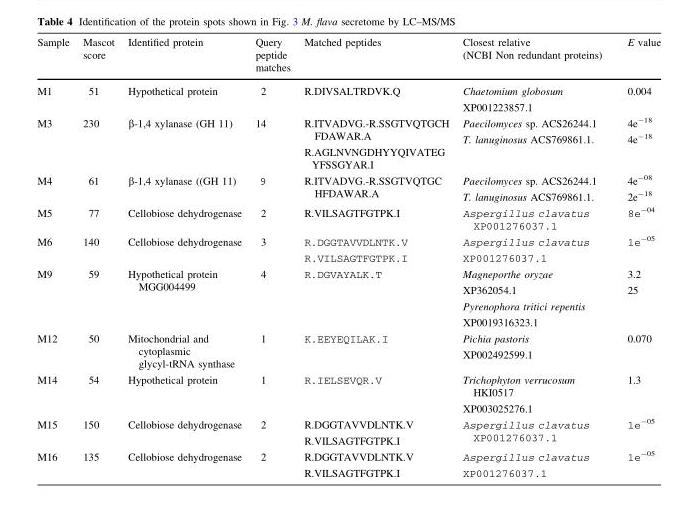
<table><thead><tr><td>Sample</td><td>Mascot score</td><td>Identified protein</td><td>Query peptide matches</td><td>Matched peptides</td><td>Closest relative (NCBI Non redundant proteins)</td><td>E value</td></tr></thead><tbody><tr><td>M1</td><td>51</td><td>Hypothetical protein</td><td>2</td><td>R.DIVSALTRDVK.Q</td><td>Chaetomium globosum XP001223857.1</td><td>0.004</td></tr><tr><td>M3</td><td>230</td><td>β-1,4 xylanase (GH 11)</td><td>14</td><td>R.ITVADVG.-R.SSGTVQTGCH FDAWAR.A R.AGLNVNGDHYYQIVATEG YFSSGYAR.I</td><td>Paecilomyces sp. ACS26244.1 T. lanuginosus ACS769861.1.</td><td>4e<sup>-18</sup> 4e<sup>-18</sup></td></tr><tr><td>M4</td><td>61</td><td>β-1,4 xylanase ((GH 11)</td><td>9</td><td>R.ITVADVG.-R.SSGTVQTGC HFDAWAR.A</td><td>Paecilomyces sp. ACS26244.1 T. lanuginosus ACS769861.1.</td><td>4e<sup>-08</sup> 2e<sup>-18</sup></td></tr><tr><td>M5</td><td>77</td><td>Cellobiose dehydrogenase</td><td>2</td><td>R.VILSAGTFGTPK.I</td><td>Aspergillus clavatus XP001276037.1</td><td>8e<sup>-04</sup></td></tr><tr><td>M6</td><td>140</td><td>Cellobiose dehydrogenase</td><td>3</td><td>R.DGGTAVVDLNTK.V R.VILSAGTFGTPK.I</td><td>Aspergillus clavatus XP001276037.1</td><td>1e<sup>-05</sup></td></tr><tr><td>M9</td><td>59</td><td>Hypothetical protein MGG004499</td><td>4</td><td>R.DGVAYALK.T</td><td>Magneporthe oryzae XP362054.1 Pyrenophora tritici repentis XP0019316323.1</td><td>3.2 25</td></tr><tr><td>M12</td><td>50</td><td>Mitochondrial and cytoplasmic glycyl-tRNA synthase</td><td>1</td><td>K.EEYEQILAK.I</td><td>Pichia pastoris XP002492599.1</td><td>0.070</td></tr><tr><td>M14</td><td>54</td><td>Hypothetical protein</td><td>1</td><td>R.IELSEVQR.V</td><td>Trichophyton verrucosum HKI0517 XP003025276.1</td><td>1.3</td></tr><tr><td>M15</td><td>150</td><td>Cellobiose dehydrogenase</td><td>2</td><td>R.DGGTAVVDLNTK.V R.VILSAGTFGTPK.I</td><td>Aspergillus clavatus XP001276037.1</td><td>1e<sup>-05</sup></td></tr><tr><td>M16</td><td>135</td><td>Cellobiose dehydrogenase</td><td>2</td><td>R.DGGTAVVDLNTK.V R.VILSAGTFGTPK.I</td><td>Aspergillus clavatus XP001276037.1</td><td>1e<sup>-05</sup></td></tr></tbody></table>